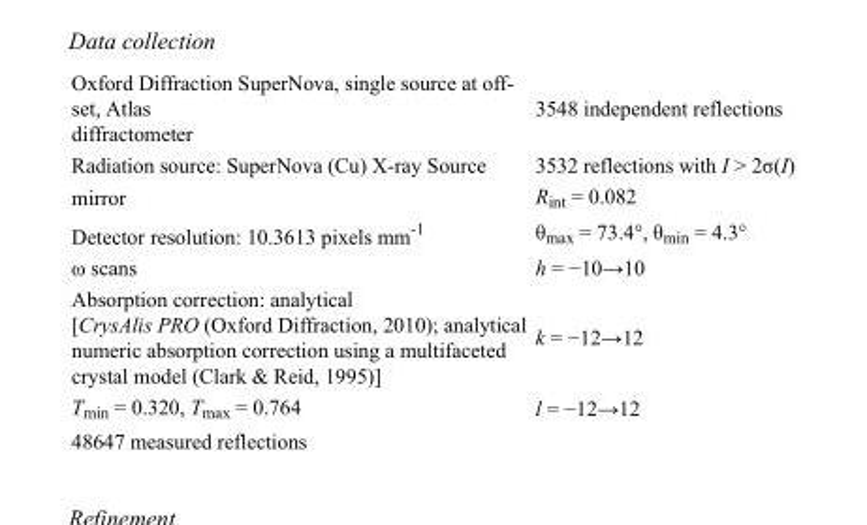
<table><tbody><tr><td>Oxford Diffraction SuperNova, single source at off- set, Atlas diffractometer</td><td>3548 independent reflections</td></tr><tr><td>Radiation source: SuperNova (Cu) X-ray Source</td><td>3532 reflections with I &gt; 2σ(I)</td></tr><tr><td>mirror</td><td>R<sub>int</sub> = 0.082</td></tr><tr><td>Detector resolution: 10.3613 pixels mm<sup>-1</sup></td><td>θ<sub>max</sub> = 73.4°, θ<sub>min</sub> = 4.3°</td></tr><tr><td>ω scans</td><td>h = −10→10</td></tr><tr><td>Absorption correction: analytical [CrysAlis PRO (Oxford Diffraction, 2010); analytical numeric absorption correction using a multifaceted crystal model (Clark &amp; Reid, 1995)]</td><td>k = −12→12</td></tr><tr><td>T<sub>min</sub> = 0.320, T<sub>max</sub> = 0.764</td><td>l = −12→12</td></tr><tr><td>48647 measured reflections</td><td></td></tr></tbody></table>